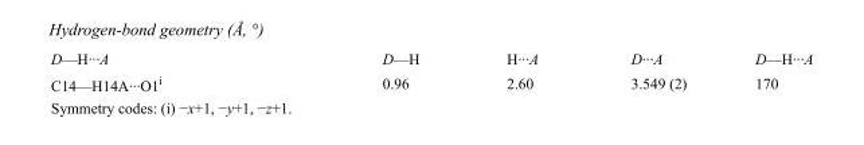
<table><tbody><tr><td>D—H···A</td><td>D—H</td><td>H···A</td><td>D···A</td><td>D—H···A</td></tr><tr><td>C14—H14A···O1<sup>i</sup></td><td>0.96</td><td>2.60</td><td>3.549 (2)</td><td>170</td></tr></tbody></table>